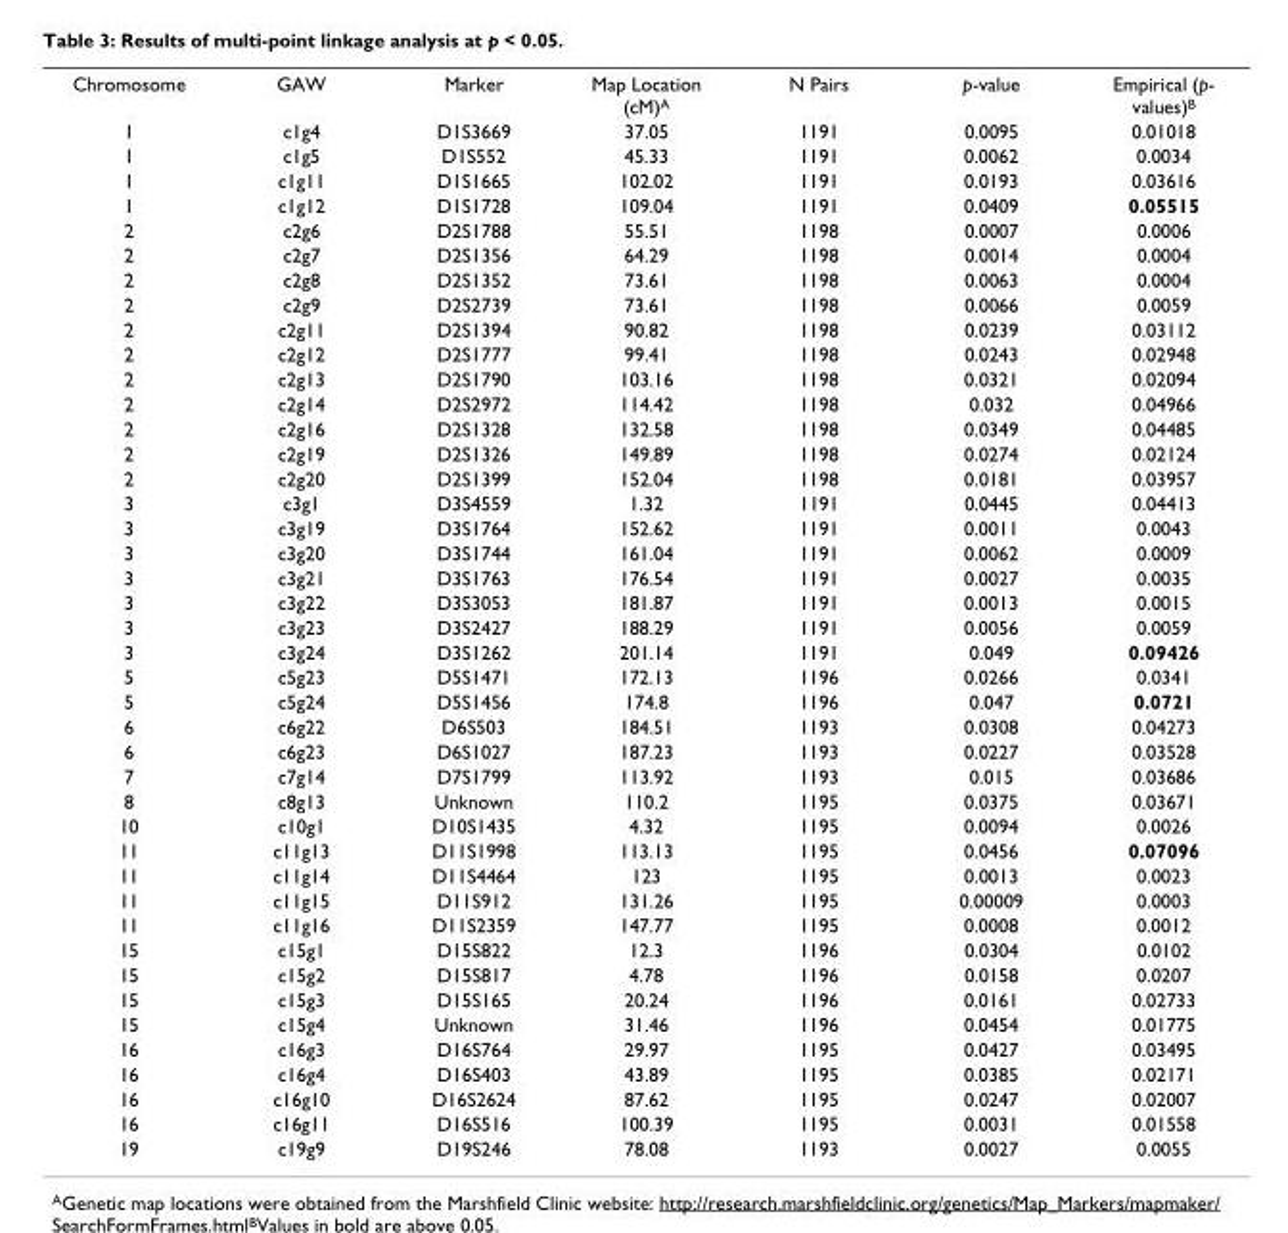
<table><tbody><tr><td>Chromosome</td><td>GAW</td><td>Marker</td><td>Map Location (cM)A</td><td>N Pairs</td><td>p-value</td><td>Empirical (p- values)B</td></tr><tr><td>1</td><td>c1g4</td><td>D1S3669</td><td>37.05</td><td>1191</td><td>0.0095</td><td>0.01018</td></tr><tr><td>1</td><td>c1g5</td><td>D1S552</td><td>45.33</td><td>1191</td><td>0.0062</td><td>0.0034</td></tr><tr><td>1</td><td>c1g11</td><td>D1S1665</td><td>102.02</td><td>1191</td><td>0.0193</td><td>0.03616</td></tr><tr><td>1</td><td>c1g12</td><td>D1S1728</td><td>109.04</td><td>1191</td><td>0.0409</td><td>0.05515</td></tr><tr><td>2</td><td>c2g6</td><td>D2S1788</td><td>55.51</td><td>1198</td><td>0.0007</td><td>0.0006</td></tr><tr><td>2</td><td>c2g7</td><td>D2S1356</td><td>64.29</td><td>1198</td><td>0.0014</td><td>0.0004</td></tr><tr><td>2</td><td>c2g8</td><td>D2S1352</td><td>73.61</td><td>1198</td><td>0.0063</td><td>0.0004</td></tr><tr><td>2</td><td>c2g9</td><td>D2S2739</td><td>73.61</td><td>1198</td><td>0.0066</td><td>0.0059</td></tr><tr><td>2</td><td>c2g11</td><td>D2S1394</td><td>90.82</td><td>1198</td><td>0.0239</td><td>0.03112</td></tr><tr><td>2</td><td>c2g12</td><td>D2S1777</td><td>99.41</td><td>1198</td><td>0.0243</td><td>0.02948</td></tr><tr><td>2</td><td>c2g13</td><td>D2S1790</td><td>103.16</td><td>1198</td><td>0.0321</td><td>0.02094</td></tr><tr><td>2</td><td>c2g14</td><td>D2S2972</td><td>114.42</td><td>1198</td><td>0.032</td><td>0.04966</td></tr><tr><td>2</td><td>c2g16</td><td>D2S1328</td><td>132.58</td><td>1198</td><td>0.0349</td><td>0.04485</td></tr><tr><td>2</td><td>c2g19</td><td>D2S1326</td><td>149.89</td><td>1198</td><td>0.0274</td><td>0.02124</td></tr><tr><td>2</td><td>c2g20</td><td>D2S1399</td><td>152.04</td><td>1198</td><td>0.0181</td><td>0.03957</td></tr><tr><td>3</td><td>c3g1</td><td>D3S4559</td><td>1.32</td><td>1191</td><td>0.0445</td><td>0.04413</td></tr><tr><td>3</td><td>c3g19</td><td>D3S1764</td><td>152.62</td><td>1191</td><td>0.0011</td><td>0.0043</td></tr><tr><td>3</td><td>c3g20</td><td>D3S1744</td><td>161.04</td><td>1191</td><td>0.0062</td><td>0.0009</td></tr><tr><td>3</td><td>c3g21</td><td>D3S1763</td><td>176.54</td><td>1191</td><td>0.0027</td><td>0.0035</td></tr><tr><td>3</td><td>c3g22</td><td>D3S3053</td><td>181.87</td><td>1191</td><td>0.0013</td><td>0.0015</td></tr><tr><td>3</td><td>c3g23</td><td>D3S2427</td><td>188.29</td><td>1191</td><td>0.0056</td><td>0.0059</td></tr><tr><td>3</td><td>c3g24</td><td>D3S1262</td><td>201.14</td><td>1191</td><td>0.049</td><td>0.09426</td></tr><tr><td>5</td><td>c5g23</td><td>D5S1471</td><td>172.13</td><td>1196</td><td>0.0266</td><td>0.0341</td></tr><tr><td>5</td><td>c5g24</td><td>D5S1456</td><td>174.8</td><td>1196</td><td>0.047</td><td>0.0721</td></tr><tr><td>6</td><td>c6g22</td><td>D6S503</td><td>184.51</td><td>1193</td><td>0.0308</td><td>0.04273</td></tr><tr><td>6</td><td>c6g23</td><td>D6S1027</td><td>187.23</td><td>1193</td><td>0.0227</td><td>0.03528</td></tr><tr><td>7</td><td>c7g14</td><td>D7S1799</td><td>113.92</td><td>1193</td><td>0.015</td><td>0.03686</td></tr><tr><td>8</td><td>c8g13</td><td>Unknown</td><td>110.2</td><td>1195</td><td>0.0375</td><td>0.03671</td></tr><tr><td>10</td><td>c10g1</td><td>D10S1435</td><td>4.32</td><td>1195</td><td>0.0094</td><td>0.0026</td></tr><tr><td>11</td><td>c11g13</td><td>D11S1998</td><td>113.13</td><td>1195</td><td>0.0456</td><td>0.07096</td></tr><tr><td>11</td><td>c11g14</td><td>D11S4464</td><td>123</td><td>1195</td><td>0.0013</td><td>0.0023</td></tr><tr><td>11</td><td>c11g15</td><td>D11S912</td><td>131.26</td><td>1195</td><td>0.00009</td><td>0.0003</td></tr><tr><td>11</td><td>c11g16</td><td>D11S2359</td><td>147.77</td><td>1195</td><td>0.0008</td><td>0.0012</td></tr><tr><td>15</td><td>c15g1</td><td>D15S822</td><td>12.3</td><td>1196</td><td>0.0304</td><td>0.0102</td></tr><tr><td>15</td><td>c15g2</td><td>D15S817</td><td>4.78</td><td>1196</td><td>0.0158</td><td>0.0207</td></tr><tr><td>15</td><td>c15g3</td><td>D15S165</td><td>20.24</td><td>1196</td><td>0.0161</td><td>0.02733</td></tr><tr><td>15</td><td>c15g4</td><td>Unknown</td><td>31.46</td><td>1196</td><td>0.0454</td><td>0.01775</td></tr><tr><td>16</td><td>c16g3</td><td>D16S764</td><td>29.97</td><td>1195</td><td>0.0427</td><td>0.03495</td></tr><tr><td>16</td><td>c16g4</td><td>D16S403</td><td>43.89</td><td>1195</td><td>0.0385</td><td>0.02171</td></tr><tr><td>16</td><td>c16g10</td><td>D16S2624</td><td>87.62</td><td>1195</td><td>0.0247</td><td>0.02007</td></tr><tr><td>16</td><td>c16g11</td><td>D16S516</td><td>100.39</td><td>1195</td><td>0.0031</td><td>0.01558</td></tr><tr><td>19</td><td>c19g9</td><td>D19S246</td><td>78.08</td><td>1193</td><td>0.0027</td><td>0.0055</td></tr></tbody></table>